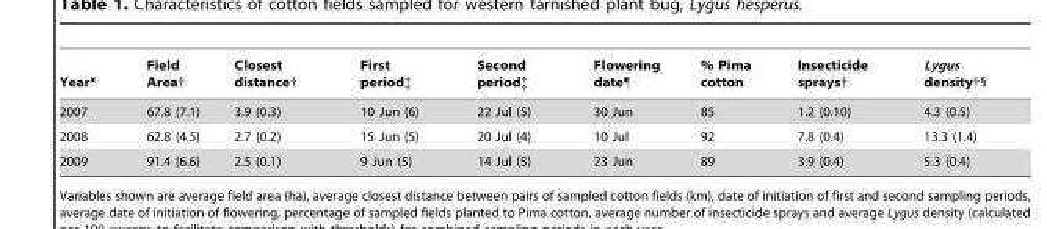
<table><thead><tr><td>Year*</td><td>Field Area†</td><td>Closest distance†</td><td>First period‡</td><td>Second period‡</td><td>Flowering date¶</td><td>% Pima cotton</td><td>Insecticide sprays†</td><td>Lygus density†§</td></tr></thead><tbody><tr><td>2007</td><td>67.8 (7.1)</td><td>3.9 (0.3)</td><td>10 Jun (6)</td><td>22 Jul (5)</td><td>30 Jun</td><td>85</td><td>1.2 (0.10)</td><td>4.3 (0.5)</td></tr><tr><td>2008</td><td>62.8 (4.5)</td><td>2.7 (0.2)</td><td>15 Jun (5)</td><td>20 Jul (4)</td><td>10 Jul</td><td>92</td><td>7.8 (0.4)</td><td>13.3 (1.4)</td></tr><tr><td>2009</td><td>91.4 (6.6)</td><td>2.5 (0.1)</td><td>9 Jun (5)</td><td>14 Jul (5)</td><td>23 Jun</td><td>89</td><td>3.9 (0.4)</td><td>5.3 (0.4)</td></tr></tbody></table>